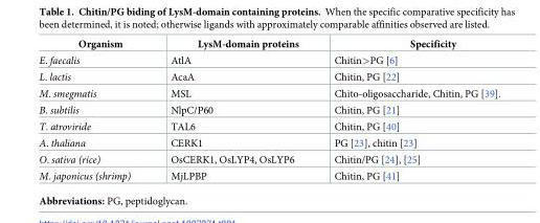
<table><thead><tr><td>Organism</td><td>LysM-domain proteins</td><td>Specificity</td></tr></thead><tbody><tr><td>E. faecalis</td><td>AtlA</td><td>Chitin&gt;PG [6]</td></tr><tr><td>L. lactis</td><td>AcaA</td><td>Chitin, PG [22]</td></tr><tr><td>M. smegmatis</td><td>MSL</td><td>Chito-oligosaccharide, Chitin, PG [39].</td></tr><tr><td>B. subtilis</td><td>NlpC/P60</td><td>Chitin, PG [21]</td></tr><tr><td>T. atroviride</td><td>TAL6</td><td>Chitin, PG [40]</td></tr><tr><td>A. thaliana</td><td>CERK1</td><td>PG [23], chitin [23]</td></tr><tr><td>O. sativa (rice)</td><td>OsCERK1, OsLYP4, OsLYP6</td><td>Chitin/PG [24], [25]</td></tr><tr><td>M. japonicus (shrimp)</td><td>MjLPBP</td><td>Chitin, PG [41]</td></tr></tbody></table>